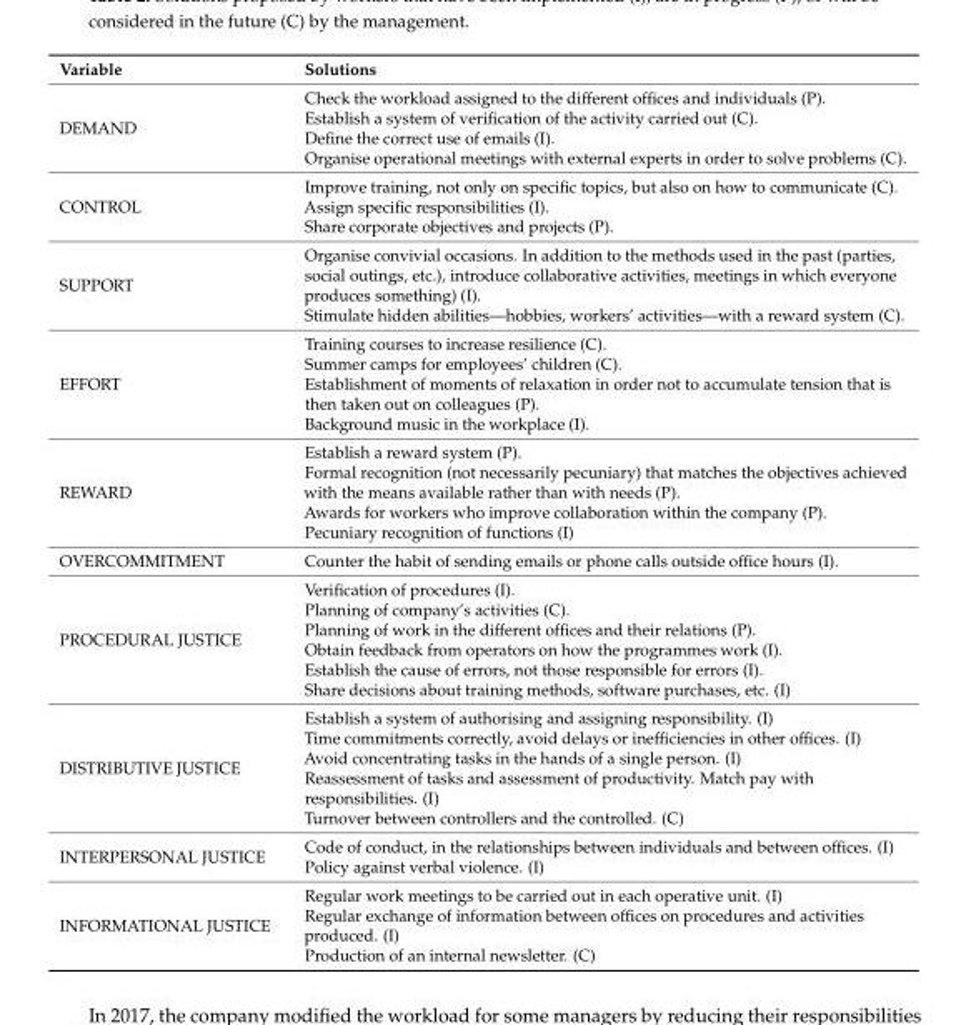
<table><thead><tr><td>Variable</td><td>Solutions</td></tr></thead><tbody><tr><td>DEMAND</td><td>Check the workload assigned to the different offices and individuals (P). Establish a system of verification of the activity carried out (C). Define the correct use of emails (I). Organise operational meetings with external experts in order to solve problems (C).</td></tr><tr><td>CONTROL</td><td>Improve training, not only on specific topics, but also on how to communicate (C). Assign specific responsibilities (I). Share corporate objectives and projects (P).</td></tr><tr><td>SUPPORT</td><td>Organise convivial occasions. In addition to the methods used in the past (parties, social outings, etc.), introduce collaborative activities, meetings in which everyone produces something) (I). Stimulate hidden abilities—hobbies, workers’ activities—with a reward system (C).</td></tr><tr><td>EFFORT</td><td>Training courses to increase resilience (C). Summer camps for employees’ children (C). Establishment of moments of relaxation in order not to accumulate tension that is then taken out on colleagues (P). Background music in the workplace (I).</td></tr><tr><td>REWARD</td><td>Establish a reward system (P). Formal recognition (not necessarily pecuniary) that matches the objectives achieved with the means available rather than with needs (P). Awards for workers who improve collaboration within the company (P). Pecuniary recognition of functions (I)</td></tr><tr><td>OVERCOMMITMENT</td><td>Counter the habit of sending emails or phone calls outside office hours (I).</td></tr><tr><td>PROCEDURAL JUSTICE</td><td>Verification of procedures (I). Planning of company’s activities (C). Planning of work in the different offices and their relations (P). Obtain feedback from operators on how the programmes work (I). Establish the cause of errors, not those responsible for errors (I). Share decisions about training methods, software purchases, etc. (I)</td></tr><tr><td>DISTRIBUTIVE JUSTICE</td><td>Establish a system of authorising and assigning responsibility. (I) Time commitments correctly, avoid delays or inefficiencies in other offices. (I) Avoid concentrating tasks in the hands of a single person. (I) Reassessment of tasks and assessment of productivity. Match pay with responsibilities. (I) Turnover between controllers and the controlled. (C)</td></tr><tr><td>INTERPERSONAL JUSTICE</td><td>Code of conduct, in the relationships between individuals and between offices. (I) Policy against verbal violence. (I)</td></tr><tr><td>INFORMATIONAL JUSTICE</td><td>Regular work meetings to be carried out in each operative unit. (I) Regular exchange of information between offices on procedures and activities produced. (I) Production of an internal newsletter. (C)</td></tr></tbody></table>